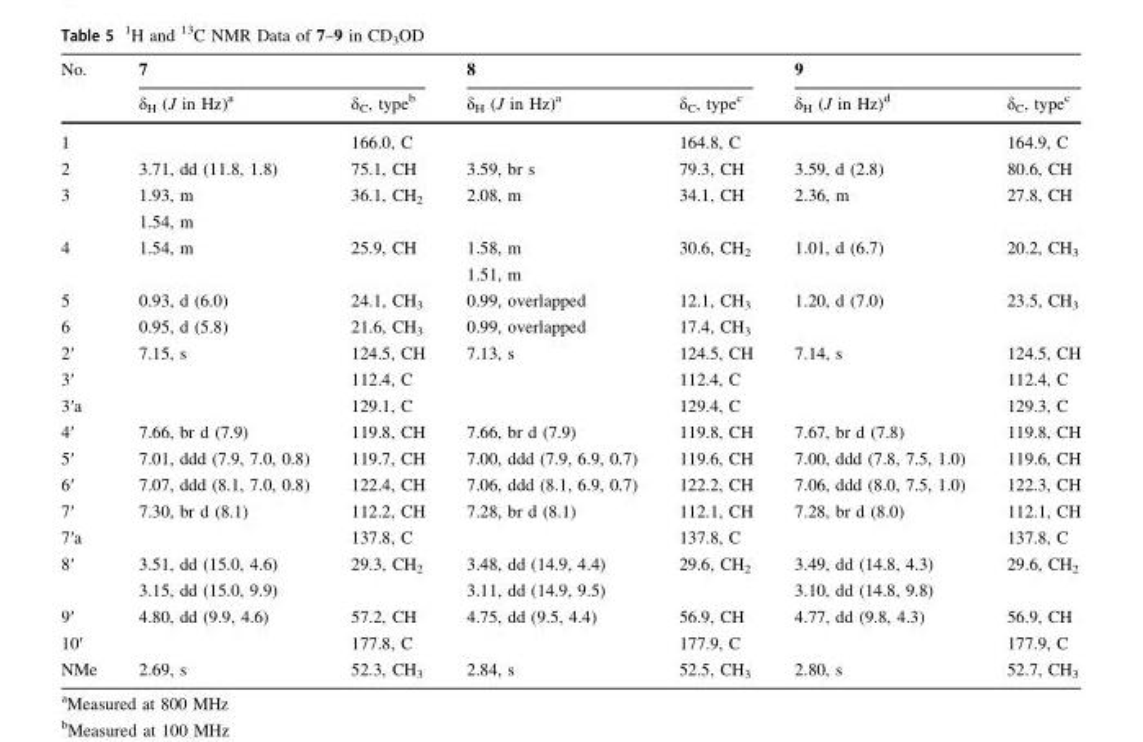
<table><thead><tr><td rowspan="2">No.</td><td colspan="2">7</td><td colspan="2">8</td><td colspan="2">9</td></tr><tr><td>δ<sub>H</sub> (J in Hz)<sup>a</sup></td><td>δ<sub>C</sub>, type<sup>b</sup></td><td>δ<sub>H</sub> (J in Hz)<sup>a</sup></td><td>δ<sub>C</sub>, type<sup>c</sup></td><td>δ<sub>H</sub> (J in Hz)<sup>d</sup></td><td>δ<sub>C</sub>, type<sup>c</sup></td></tr></thead><tbody><tr><td>1</td><td></td><td>166.0, C</td><td></td><td>164.8, C</td><td></td><td>164.9, C</td></tr><tr><td>2</td><td>3.71, dd (11.8, 1.8)</td><td>75.1, CH</td><td>3.59, br s</td><td>79.3, CH</td><td>3.59, d (2.8)</td><td>80.6, CH</td></tr><tr><td>3</td><td>1.93, m 1.54, m</td><td>36.1, CH<sub>2</sub></td><td>2.08, m</td><td>34.1, CH</td><td>2.36, m</td><td>27.8, CH</td></tr><tr><td>4</td><td>1.54, m</td><td>25.9, CH</td><td>1.58, m 1.51, m</td><td>30.6, CH<sub>2</sub></td><td>1.01, d (6.7)</td><td>20.2, CH<sub>3</sub></td></tr><tr><td>5</td><td>0.93, d (6.0)</td><td>24.1, CH<sub>3</sub></td><td>0.99, overlapped</td><td>12.1, CH<sub>3</sub></td><td>1.20, d (7.0)</td><td>23.5, CH<sub>3</sub></td></tr><tr><td>6</td><td>0.95, d (5.8)</td><td>21.6, CH<sub>3</sub></td><td>0.99, overlapped</td><td>17.4, CH<sub>3</sub></td><td></td><td></td></tr><tr><td>2′</td><td>7.15, s</td><td>124.5, CH</td><td>7.13, s</td><td>124.5, CH</td><td>7.14, s</td><td>124.5, CH</td></tr><tr><td>3′</td><td></td><td>112.4, C</td><td></td><td>112.4, C</td><td></td><td>112.4, C</td></tr><tr><td>3′a</td><td></td><td>129.1, C</td><td></td><td>129.4, C</td><td></td><td>129.3, C</td></tr><tr><td>4′</td><td>7.66, br d (7.9)</td><td>119.8, CH</td><td>7.66, br d (7.9)</td><td>119.8, CH</td><td>7.67, br d (7.8)</td><td>119.8, CH</td></tr><tr><td>5′</td><td>7.01, ddd (7.9, 7.0, 0.8)</td><td>119.7, CH</td><td>7.00, ddd (7.9, 6.9, 0.7)</td><td>119.6, CH</td><td>7.00, ddd (7.8, 7.5, 1.0)</td><td>119.6, CH</td></tr><tr><td>6′</td><td>7.07, ddd (8.1, 7.0, 0.8)</td><td>122.4, CH</td><td>7.06, ddd (8.1, 6.9, 0.7)</td><td>122.2, CH</td><td>7.06, ddd (8.0, 7.5, 1.0)</td><td>122.3, CH</td></tr><tr><td>7′</td><td>7.30, br d (8.1)</td><td>112.2, CH</td><td>7.28, br d (8.1)</td><td>112.1, CH</td><td>7.28, br d (8.0)</td><td>112.1, CH</td></tr><tr><td>7′a</td><td></td><td>137.8, C</td><td></td><td>137.8, C</td><td></td><td>137.8, C</td></tr><tr><td>8′</td><td>3.51, dd (15.0, 4.6) 3.15, dd (15.0, 9.9)</td><td>29.3, CH<sub>2</sub></td><td>3.48, dd (14.9, 4.4) 3.11, dd (14.9, 9.5)</td><td>29.6, CH<sub>2</sub></td><td>3.49, dd (14.8, 4.3) 3.10, dd (14.8, 9.8)</td><td>29.6, CH<sub>2</sub></td></tr><tr><td>9′</td><td>4.80, dd (9.9, 4.6)</td><td>57.2, CH</td><td>4.75, dd (9.5, 4.4)</td><td>56.9, CH</td><td>4.77, dd (9.8, 4.3)</td><td>56.9, CH</td></tr><tr><td>10′</td><td></td><td>177.8, C</td><td></td><td>177.9, C</td><td></td><td>177.9, C</td></tr><tr><td>NMe</td><td>2.69, s</td><td>52.3, CH<sub>3</sub></td><td>2.84, s</td><td>52.5, CH<sub>3</sub></td><td>2.80, s</td><td>52.7, CH<sub>3</sub></td></tr></tbody></table>